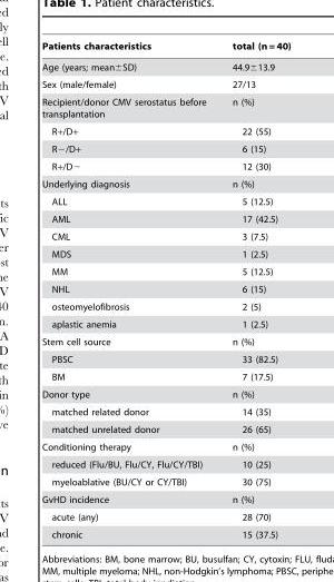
<table><thead><tr><td>Patients characteristics</td><td>total (n = 40)</td></tr></thead><tbody><tr><td>Age (years; mean±SD)</td><td>44.9±13.9</td></tr><tr><td>Sex (male/female)</td><td>27/13</td></tr><tr><td>Recipient/donor CMV serostatus before transplantation</td><td>n (%)</td></tr><tr><td>R+/D+</td><td>22 (55)</td></tr><tr><td>R−/D+</td><td>6 (15)</td></tr><tr><td>R+/D−</td><td>12 (30)</td></tr><tr><td>Underlying diagnosis</td><td>n (%)</td></tr><tr><td>ALL</td><td>5 (12.5)</td></tr><tr><td>AML</td><td>17 (42.5)</td></tr><tr><td>CML</td><td>3 (7.5)</td></tr><tr><td>MDS</td><td>1 (2.5)</td></tr><tr><td>MM</td><td>5 (12.5)</td></tr><tr><td>NHL</td><td>6 (15)</td></tr><tr><td>osteomyelofibrosis</td><td>2 (5)</td></tr><tr><td>aplastic anemia</td><td>1 (2.5)</td></tr><tr><td>Stem cell source</td><td>n (%)</td></tr><tr><td>PBSC</td><td>33 (82.5)</td></tr><tr><td>BM</td><td>7 (17.5)</td></tr><tr><td>Donor type</td><td>n (%)</td></tr><tr><td>matched related donor</td><td>14 (35)</td></tr><tr><td>matched unrelated donor</td><td>26 (65)</td></tr><tr><td>Conditioning therapy</td><td>n (%)</td></tr><tr><td>reduced (Flu/BU, Flu/CY, Flu/CY/TBI)</td><td>10 (25)</td></tr><tr><td>myeloablative (BU/CY or CY/TBI)</td><td>30 (75)</td></tr><tr><td>GvHD incidence</td><td>n (%)</td></tr><tr><td>acute (any)</td><td>28 (70)</td></tr><tr><td>chronic</td><td>15 (37.5)</td></tr></tbody></table>